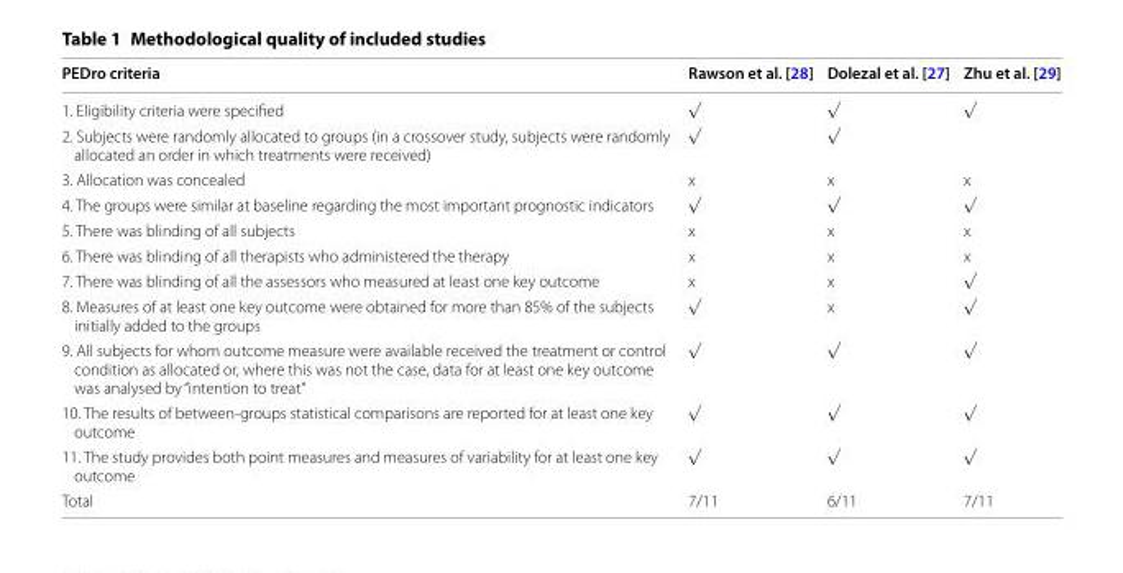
<table><thead><tr><td>PEDro criteria</td><td>Rawson et al. [28]</td><td>Dolezal et al. [27]</td><td>Zhu et al. [29]</td></tr></thead><tbody><tr><td>1. Eligibility criteria were specified</td><td>√</td><td>√</td><td>√</td></tr><tr><td>2. Subjects were randomly allocated to groups (in a crossover study, subjects were randomly allocated an order in which treatments were received)</td><td>√</td><td>√</td><td></td></tr><tr><td>3. Allocation was concealed</td><td>x</td><td>x</td><td>x</td></tr><tr><td>4. The groups were similar at baseline regarding the most important prognostic indicators</td><td>√</td><td>√</td><td>√</td></tr><tr><td>5. There was blinding of all subjects</td><td>x</td><td>x</td><td>x</td></tr><tr><td>6. There was blinding of all therapists who administered the therapy</td><td>x</td><td>x</td><td>x</td></tr><tr><td>7. There was blinding of all the assessors who measured at least one key outcome</td><td>x</td><td>x</td><td>√</td></tr><tr><td>8. Measures of at least one key outcome were obtained for more than 85% of the subjects initially added to the groups</td><td>√</td><td>x</td><td>√</td></tr><tr><td>9. All subjects for whom outcome measure were available received the treatment or control condition as allocated or, where this was not the case, data for at least one key outcome was analysed by “intention to treat”</td><td>√</td><td>√</td><td>√</td></tr><tr><td>10. The results of between-groups statistical comparisons are reported for at least one key outcome</td><td>√</td><td>√</td><td>√</td></tr><tr><td>11. The study provides both point measures and measures of variability for at least one key outcome</td><td>√</td><td>√</td><td>√</td></tr><tr><td>Total</td><td>7/11</td><td>6/11</td><td>7/11</td></tr></tbody></table>